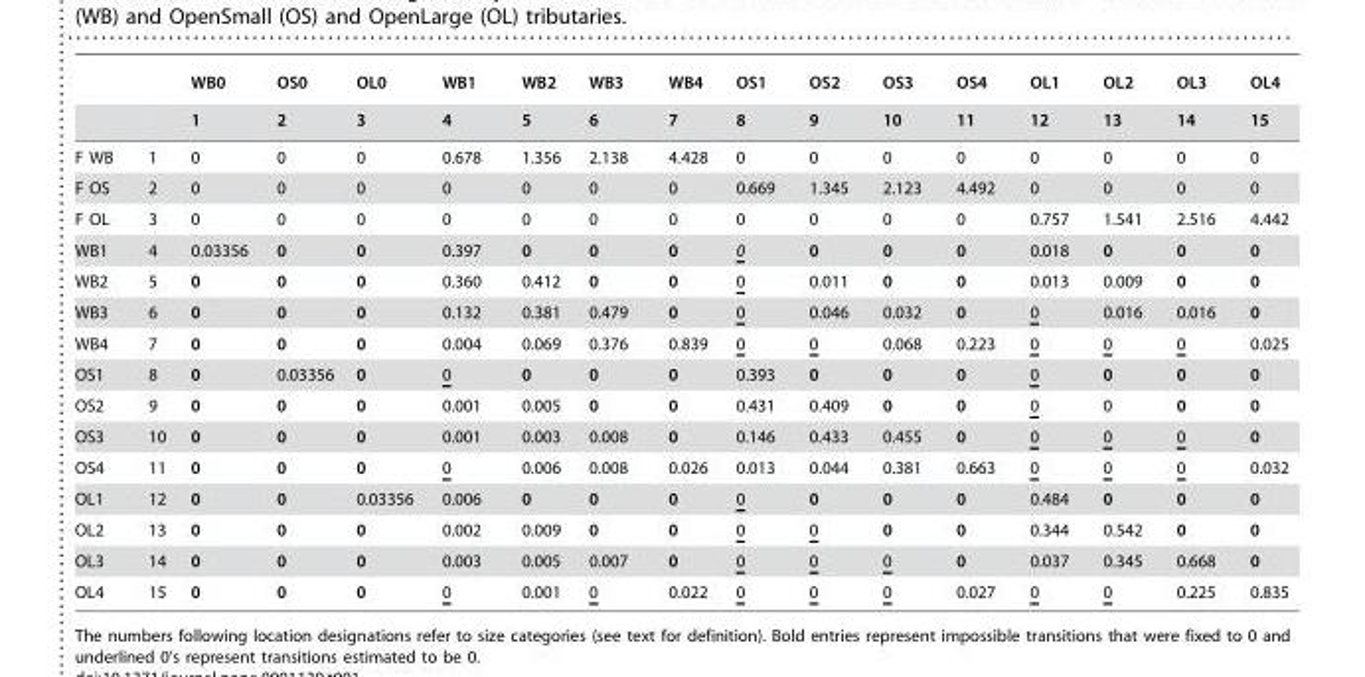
<table><thead><tr><td rowspan="2"></td><td rowspan="2"></td><td rowspan="2">WB0 1</td><td rowspan="2">OS0 2</td><td rowspan="2">OL0 3</td><td rowspan="2">WB1 4</td><td rowspan="2">WB2 5</td><td rowspan="2">WB3 6</td><td rowspan="2">WB4 7</td><td rowspan="2">OS1 8</td><td rowspan="2">OS2 9</td><td rowspan="2">OS3 10</td><td rowspan="2">OS4 11</td><td rowspan="2">OL1 12</td><td rowspan="2">OL2 13</td><td rowspan="2">OL3 14</td><td rowspan="2">OL4 15</td></tr><tr></tr></thead><tbody><tr><td>F WB</td><td>1</td><td>0</td><td>0</td><td>0</td><td>0.678</td><td>1.356</td><td>2.138</td><td>4.428</td><td>0</td><td>0</td><td>0</td><td>0</td><td>0</td><td>0</td><td>0</td><td>0</td></tr><tr><td>F OS</td><td>2</td><td>0</td><td>0</td><td>0</td><td>0</td><td>0</td><td>0</td><td>0</td><td>0.669</td><td>1.345</td><td>2.123</td><td>4.492</td><td>0</td><td>0</td><td>0</td><td>0</td></tr><tr><td>F OL</td><td>3</td><td>0</td><td>0</td><td>0</td><td>0</td><td>0</td><td>0</td><td>0</td><td>0</td><td>0</td><td>0</td><td>0</td><td>0.757</td><td>1.541</td><td>2.516</td><td>4.442</td></tr><tr><td>WB1</td><td>4</td><td>0.03356</td><td>0</td><td>0</td><td>0.397</td><td>0</td><td>0</td><td>0</td><td>0</td><td>0</td><td>0</td><td>0</td><td>0.018</td><td>0</td><td>0</td><td>0</td></tr><tr><td>WB2</td><td>5</td><td>0</td><td>0</td><td>0</td><td>0.360</td><td>0.412</td><td>0</td><td>0</td><td>0</td><td>0.011</td><td>0</td><td>0</td><td>0.013</td><td>0.009</td><td>0</td><td>0</td></tr><tr><td>WB3</td><td>6</td><td>0</td><td>0</td><td>0</td><td>0.132</td><td>0.381</td><td>0.479</td><td>0</td><td>0</td><td>0.046</td><td>0.032</td><td>0</td><td>0</td><td>0.016</td><td>0.016</td><td>0</td></tr><tr><td>WB4</td><td>7</td><td>0</td><td>0</td><td>0</td><td>0.004</td><td>0.069</td><td>0.376</td><td>0.839</td><td>0</td><td>0</td><td>0.068</td><td>0.223</td><td>0</td><td>0</td><td>0</td><td>0.025</td></tr><tr><td>OS1</td><td>8</td><td>0</td><td>0.03356</td><td>0</td><td>0</td><td>0</td><td>0</td><td>0</td><td>0.393</td><td>0</td><td>0</td><td>0</td><td>0</td><td>0</td><td>0</td><td>0</td></tr><tr><td>OS2</td><td>9</td><td>0</td><td>0</td><td>0</td><td>0.001</td><td>0.005</td><td>0</td><td>0</td><td>0.431</td><td>0.409</td><td>0</td><td>0</td><td>0</td><td>0</td><td>0</td><td>0</td></tr><tr><td>OS3</td><td>10</td><td>0</td><td>0</td><td>0</td><td>0.001</td><td>0.003</td><td>0.008</td><td>0</td><td>0.146</td><td>0.433</td><td>0.455</td><td>0</td><td>0</td><td>0</td><td>0</td><td>0</td></tr><tr><td>OS4</td><td>11</td><td>0</td><td>0</td><td>0</td><td>0</td><td>0.006</td><td>0.008</td><td>0.026</td><td>0.013</td><td>0.044</td><td>0.381</td><td>0.663</td><td>0</td><td>0</td><td>0</td><td>0.032</td></tr><tr><td>OL1</td><td>12</td><td>0</td><td>0</td><td>0.03356</td><td>0.006</td><td>0</td><td>0</td><td>0</td><td>0</td><td>0</td><td>0</td><td>0</td><td>0.484</td><td>0</td><td>0</td><td>0</td></tr><tr><td>OL2</td><td>13</td><td>0</td><td>0</td><td>0</td><td>0.002</td><td>0.009</td><td>0</td><td>0</td><td>0</td><td>0</td><td>0</td><td>0</td><td>0.344</td><td>0.542</td><td>0</td><td>0</td></tr><tr><td>OL3</td><td>14</td><td>0</td><td>0</td><td>0</td><td>0.003</td><td>0.005</td><td>0.007</td><td>0</td><td>0</td><td>0</td><td>0</td><td>0</td><td>0.037</td><td>0.345</td><td>0.668</td><td>0</td></tr><tr><td>OL4</td><td>15</td><td>0</td><td>0</td><td>0</td><td>0</td><td>0.001</td><td>0</td><td>0.022</td><td>0</td><td>0</td><td>0</td><td>0.027</td><td>0</td><td>0</td><td>0.225</td><td>0.835</td></tr></tbody></table>